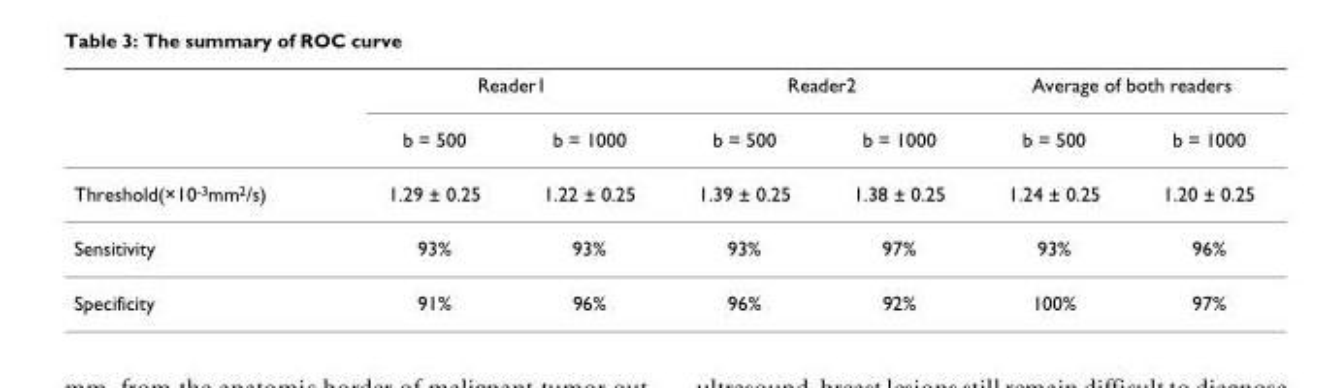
<table><thead><tr><td rowspan="2"></td><td colspan="2">Reader1</td><td colspan="2">Reader2</td><td colspan="2">Average of both readers</td></tr><tr><td>b = 500</td><td>b = 1000</td><td>b = 500</td><td>b = 1000</td><td>b = 500</td><td>b = 1000</td></tr></thead><tbody><tr><td>Threshold(×10<sup>-3</sup>mm<sup>2</sup>/s)</td><td>1.29 ± 0.25</td><td>1.22 ± 0.25</td><td>1.39 ± 0.25</td><td>1.38 ± 0.25</td><td>1.24 ± 0.25</td><td>1.20 ± 0.25</td></tr><tr><td>Sensitivity</td><td>93%</td><td>93%</td><td>93%</td><td>97%</td><td>93%</td><td>96%</td></tr><tr><td>Specificity</td><td>91%</td><td>96%</td><td>96%</td><td>92%</td><td>100%</td><td>97%</td></tr></tbody></table>